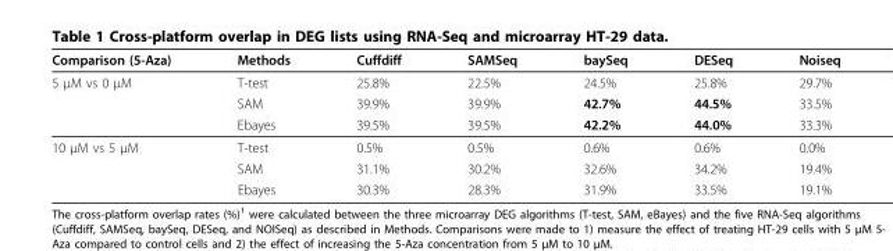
<table><thead><tr><td>Comparison (5-Aza)</td><td>Methods</td><td>Cuffdiff</td><td>SAMSeq</td><td>baySeq</td><td>DESeq</td><td>Noiseq</td></tr></thead><tbody><tr><td rowspan="3">5 µM vs 0 µM</td><td>T-test</td><td>25.8%</td><td>22.5%</td><td>24.5%</td><td>25.8%</td><td>29.7%</td></tr><tr><td>SAM</td><td>39.9%</td><td>39.9%</td><td>42.7%</td><td>44.5%</td><td>33.5%</td></tr><tr><td>Ebayes</td><td>39.5%</td><td>39.5%</td><td>42.2%</td><td>44.0%</td><td>33.3%</td></tr><tr><td rowspan="3">10 µM vs 5 µM</td><td>T-test</td><td>0.5%</td><td>0.5%</td><td>0.6%</td><td>0.6%</td><td>0.0%</td></tr><tr><td>SAM</td><td>31.1%</td><td>30.2%</td><td>32.6%</td><td>34.2%</td><td>19.4%</td></tr><tr><td>Ebayes</td><td>30.3%</td><td>28.3%</td><td>31.9%</td><td>33.5%</td><td>19.1%</td></tr></tbody></table>